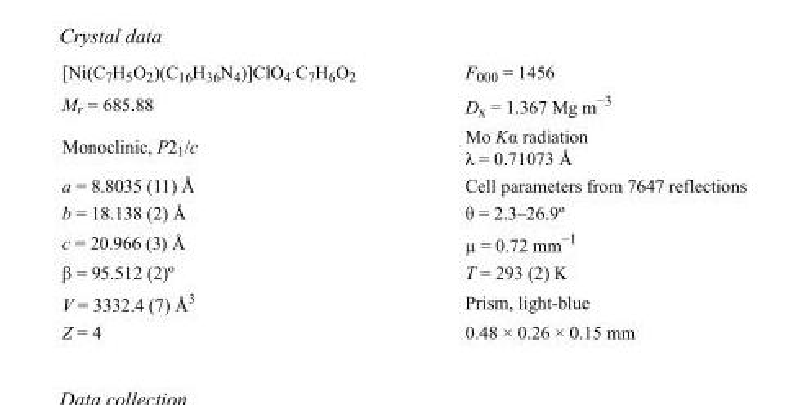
<table><tbody><tr><td>[Ni(C<sub>7</sub>H<sub>5</sub>O<sub>2</sub>)(C<sub>16</sub>H<sub>36</sub>N<sub>4</sub>)]ClO<sub>4</sub>·C<sub>7</sub>H<sub>6</sub>O<sub>2</sub></td><td>F<sub>000</sub> = 1456</td></tr><tr><td>M<sub>r</sub> = 685.88</td><td>D<sub>x</sub> = 1.367 Mg m<sup>−3</sup></td></tr><tr><td>Monoclinic, P2<sub>1</sub>/c</td><td>Mo Kα radiation λ = 0.71073 Å</td></tr><tr><td>a = 8.8035 (11) Å</td><td>Cell parameters from 7647 reflections</td></tr><tr><td>b = 18.138 (2) Å</td><td>θ = 2.3–26.9º</td></tr><tr><td>c = 20.966 (3) Å</td><td>µ = 0.72 mm<sup>−1</sup></td></tr><tr><td>β = 95.512 (2)º</td><td>T = 293 (2) K</td></tr><tr><td>V = 3332.4 (7) Å<sup>3</sup></td><td>Prism, light-blue</td></tr><tr><td>Z = 4</td><td>0.48 × 0.26 × 0.15 mm</td></tr></tbody></table>